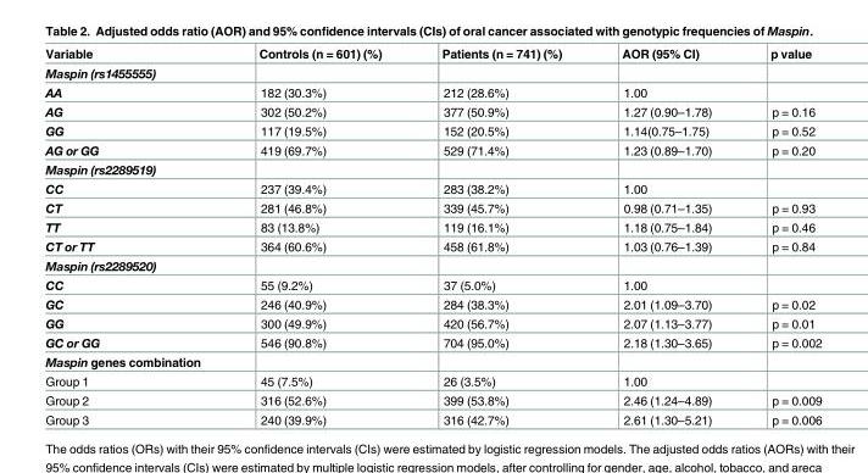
<table><thead><tr><td>Variable</td><td>Controls (n = 601) (%)</td><td>Patients (n = 741) (%)</td><td>AOR (95% CI)</td><td>p value</td></tr></thead><tbody><tr><td colspan="5">Maspin (rs1455555)</td></tr><tr><td>AA</td><td>182 (30.3%)</td><td>212 (28.6%)</td><td>1.00</td><td></td></tr><tr><td>AG</td><td>302 (50.2%)</td><td>377 (50.9%)</td><td>1.27 (0.90–1.78)</td><td>p = 0.16</td></tr><tr><td>GG</td><td>117 (19.5%)</td><td>152 (20.5%)</td><td>1.14(0.75–1.75)</td><td>p = 0.52</td></tr><tr><td>AG or GG</td><td>419 (69.7%)</td><td>529 (71.4%)</td><td>1.23 (0.89–1.70)</td><td>p = 0.20</td></tr><tr><td colspan="5">Maspin (rs2289519)</td></tr><tr><td>CC</td><td>237 (39.4%)</td><td>283 (38.2%)</td><td>1.00</td><td></td></tr><tr><td>CT</td><td>281 (46.8%)</td><td>339 (45.7%)</td><td>0.98 (0.71–1.35)</td><td>p = 0.93</td></tr><tr><td>TT</td><td>83 (13.8%)</td><td>119 (16.1%)</td><td>1.18 (0.75–1.84)</td><td>p = 0.46</td></tr><tr><td>CT or TT</td><td>364 (60.6%)</td><td>458 (61.8%)</td><td>1.03 (0.76–1.39)</td><td>p = 0.84</td></tr><tr><td colspan="5">Maspin (rs2289520)</td></tr><tr><td>CC</td><td>55 (9.2%)</td><td>37 (5.0%)</td><td>1.00</td><td></td></tr><tr><td>GC</td><td>246 (40.9%)</td><td>284 (38.3%)</td><td>2.01 (1.09–3.70)</td><td>p = 0.02</td></tr><tr><td>GG</td><td>300 (49.9%)</td><td>420 (56.7%)</td><td>2.07 (1.13–3.77)</td><td>p = 0.01</td></tr><tr><td>GC or GG</td><td>546 (90.8%)</td><td>704 (95.0%)</td><td>2.18 (1.30–3.65)</td><td>p = 0.002</td></tr><tr><td colspan="5">Maspin genes combination</td></tr><tr><td>Group 1</td><td>45 (7.5%)</td><td>26 (3.5%)</td><td>1.00</td><td></td></tr><tr><td>Group 2</td><td>316 (52.6%)</td><td>399 (53.8%)</td><td>2.46 (1.24–4.89)</td><td>p = 0.009</td></tr><tr><td>Group 3</td><td>240 (39.9%)</td><td>316 (42.7%)</td><td>2.61 (1.30–5.21)</td><td>p = 0.006</td></tr></tbody></table>